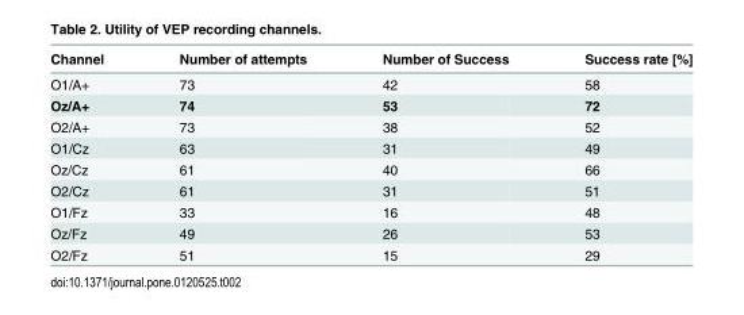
<table><thead><tr><td>Channel</td><td>Number of attempts</td><td>Number of Success</td><td>Success rate [%]</td></tr></thead><tbody><tr><td>O1/A+</td><td>73</td><td>42</td><td>58</td></tr><tr><td>Oz/A+</td><td>74</td><td>53</td><td>72</td></tr><tr><td>O2/A+</td><td>73</td><td>38</td><td>52</td></tr><tr><td>O1/Cz</td><td>63</td><td>31</td><td>49</td></tr><tr><td>Oz/Cz</td><td>61</td><td>40</td><td>66</td></tr><tr><td>O2/Cz</td><td>61</td><td>31</td><td>51</td></tr><tr><td>O1/Fz</td><td>33</td><td>16</td><td>48</td></tr><tr><td>Oz/Fz</td><td>49</td><td>26</td><td>53</td></tr><tr><td>O2/Fz</td><td>51</td><td>15</td><td>29</td></tr></tbody></table>